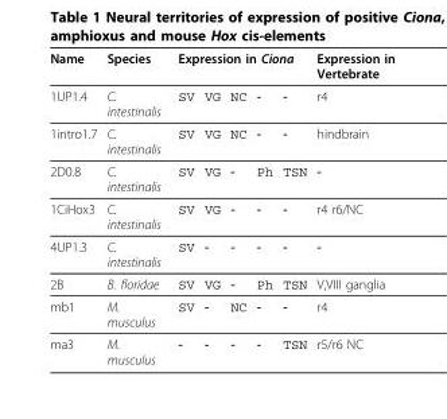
<table><thead><tr><td rowspan="2">Name 1UP1.4</td><td rowspan="2">Species C. intestinalis</td><td colspan="5">Expression in Ciona</td><td rowspan="2">Expression in Vertebrate r4</td></tr><tr><td>SV</td><td>VG</td><td>NC</td><td>-</td><td>-</td></tr></thead><tbody><tr><td>1intro1.7</td><td>C. intestinalis</td><td>SV</td><td>VG</td><td>NC</td><td>-</td><td>-</td><td>hindbrain</td></tr><tr><td>2D0.8</td><td>C. intestinalis</td><td>SV</td><td>VG</td><td>-</td><td>Ph</td><td>TSN</td><td>-</td></tr><tr><td>1CiHox3</td><td>C. intestinalis</td><td>SV</td><td>VG</td><td>-</td><td>-</td><td>-</td><td>r4 r6/NC</td></tr><tr><td>4UP1.3</td><td>C. intestinalis</td><td>SV</td><td>-</td><td>-</td><td>-</td><td>-</td><td>-</td></tr><tr><td>2B</td><td>B. floridae</td><td>SV</td><td>VG</td><td>-</td><td>Ph</td><td>TSN</td><td>V,VIII ganglia</td></tr><tr><td>mb1</td><td>M. musculus</td><td>SV</td><td>-</td><td>NC</td><td>-</td><td>-</td><td>r4</td></tr><tr><td>ma3</td><td>M. musculus</td><td>-</td><td>-</td><td>-</td><td>-</td><td>TSN</td><td>r5/r6 NC</td></tr></tbody></table>